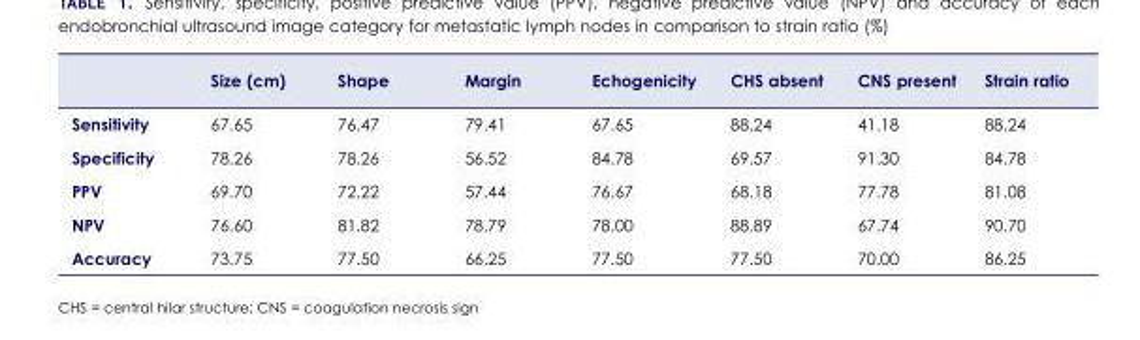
<table><thead><tr><td></td><td>Size (cm)</td><td>Shape</td><td>Margin</td><td>Echogenicity</td><td>CHS absent</td><td>CNS present</td><td>Strain ratio</td></tr></thead><tbody><tr><td>Sensitivity</td><td>67.65</td><td>76.47</td><td>79.41</td><td>67.65</td><td>88.24</td><td>41.18</td><td>88.24</td></tr><tr><td>Specificity</td><td>78.26</td><td>78.26</td><td>56.52</td><td>84.78</td><td>69.57</td><td>91.30</td><td>84.78</td></tr><tr><td>PPV</td><td>69.70</td><td>72.22</td><td>57.44</td><td>76.67</td><td>68.18</td><td>77.78</td><td>81.08</td></tr><tr><td>NPV</td><td>76.60</td><td>81.82</td><td>78.79</td><td>78.00</td><td>88.89</td><td>67.74</td><td>90.70</td></tr><tr><td>Accuracy</td><td>73.75</td><td>77.50</td><td>66.25</td><td>77.50</td><td>77.50</td><td>70.00</td><td>86.25</td></tr></tbody></table>